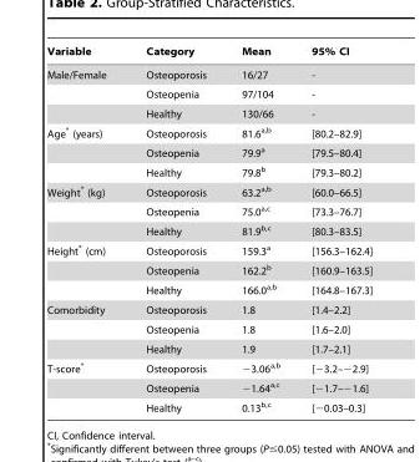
<table><thead><tr><td>Variable</td><td>Category</td><td>Mean</td><td>95% CI</td></tr></thead><tbody><tr><td rowspan="3">Male/Female</td><td>Osteoporosis</td><td>16/27</td><td>-</td></tr><tr><td>Osteopenia</td><td>97/104</td><td>-</td></tr><tr><td>Healthy</td><td>130/66</td><td>-</td></tr><tr><td rowspan="3">Age* (years)</td><td>Osteoporosis</td><td>81.6<sup>a,b</sup></td><td>[80.2–82.9]</td></tr><tr><td>Osteopenia</td><td>79.9<sup>a</sup></td><td>[79.5–80.4]</td></tr><tr><td>Healthy</td><td>79.8<sup>b</sup></td><td>[79.3–80.2]</td></tr><tr><td rowspan="3">Weight* (kg)</td><td>Osteoporosis</td><td>63.2<sup>a,b</sup></td><td>[60.0–66.5]</td></tr><tr><td>Osteopenia</td><td>75.0<sup>a,c</sup></td><td>[73.3–76.7]</td></tr><tr><td>Healthy</td><td>81.9<sup>b,c</sup></td><td>[80.3–83.5]</td></tr><tr><td rowspan="3">Height* (cm)</td><td>Osteoporosis</td><td>159.3<sup>a</sup></td><td>[156.3–162.4]</td></tr><tr><td>Osteopenia</td><td>162.2<sup>b</sup></td><td>[160.9–163.5]</td></tr><tr><td>Healthy</td><td>166.0<sup>a,b</sup></td><td>[164.8–167.3]</td></tr><tr><td rowspan="3">Comorbidity</td><td>Osteoporosis</td><td>1.8</td><td>[1.4–2.2]</td></tr><tr><td>Osteopenia</td><td>1.8</td><td>[1.6–2.0]</td></tr><tr><td>Healthy</td><td>1.9</td><td>[1.7–2.1]</td></tr><tr><td rowspan="3">T-score*</td><td>Osteoporosis</td><td>−3.06<sup>a,b</sup></td><td>[−3.2–−2.9]</td></tr><tr><td>Osteopenia</td><td>−1.64<sup>a,c</sup></td><td>[−1.7–−1.6]</td></tr><tr><td>Healthy</td><td>0.13<sup>b,c</sup></td><td>[−0.03–0.3]</td></tr></tbody></table>